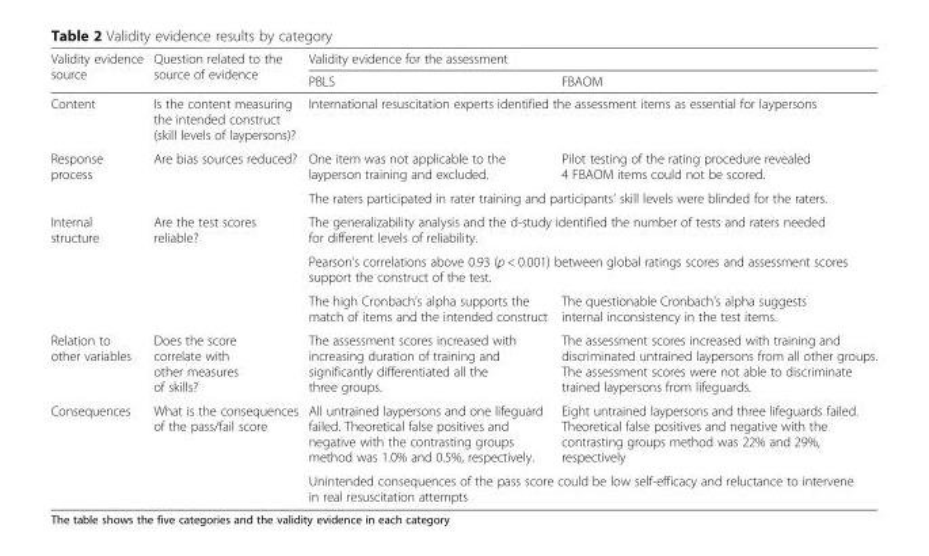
<table><thead><tr><td rowspan="2">Validity evidence source</td><td rowspan="2">Question related to the source of evidence</td><td colspan="2">Validity evidence for the assessment</td></tr><tr><td>PBLS</td><td>FBAOM</td></tr></thead><tbody><tr><td>Content</td><td>Is the content measuring the intended construct (skill levels of laypersons)?</td><td colspan="2">International resuscitation experts identified the assessment items as essential for laypersons</td></tr><tr><td rowspan="2">Response process</td><td rowspan="2">Are bias sources reduced?</td><td>One item was not applicable to the layperson training and excluded.</td><td>Pilot testing of the rating procedure revealed 4 FBAOM items could not be scored.</td></tr><tr><td colspan="2">The raters participated in rater training and participants’ skill levels were blinded for the raters.</td></tr><tr><td rowspan="3">Internal structure</td><td rowspan="3">Are the test scores reliable?</td><td colspan="2">The generalizability analysis and the d-study identified the number of tests and raters needed for different levels of reliability.</td></tr><tr><td colspan="2">Pearson’s correlations above 0.93 (p &lt; 0.001) between global ratings scores and assessment scores support the construct of the test.</td></tr><tr><td>The high Cronbach’s alpha supports the match of items and the intended construct</td><td>The questionable Cronbach’s alpha suggests internal inconsistency in the test items.</td></tr><tr><td>Relation to other variables</td><td>Does the score correlate with other measures of skills?</td><td>The assessment scores increased with increasing duration of training and significantly differentiated all the three groups.</td><td>The assessment scores increased with training and discriminated untrained laypersons from all other groups. The assessment scores were not able to discriminate trained laypersons from lifeguards.</td></tr><tr><td rowspan="2">Consequences</td><td rowspan="2">What is the consequences of the pass/fail score</td><td>All untrained laypersons and one lifeguard failed. Theoretical false positives and negative with the contrasting groups method was 1.0% and 0.5%, respectively.</td><td>Eight untrained laypersons and three lifeguards failed. Theoretical false positives and negative with the contrasting groups method was 22% and 29%, respectively</td></tr><tr><td colspan="2">Unintended consequences of the pass score could be low self-efficacy and reluctance to intervene in real resuscitation attempts</td></tr></tbody></table>